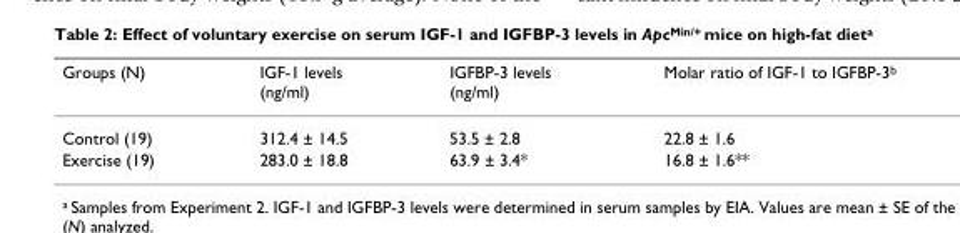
<table><thead><tr><td>Groups (N)</td><td>IGF-1 levels (ng/ml)</td><td>IGFBP-3 levels (ng/ml)</td><td>Molar ratio of IGF-1 to IGFBP-3<sup>b</sup></td></tr></thead><tbody><tr><td>Control (19)</td><td>312.4 ± 14.5</td><td>53.5 ± 2.8</td><td>22.8 ± 1.6</td></tr><tr><td>Exercise (19)</td><td>283.0 ± 18.8</td><td>63.9 ± 3.4*</td><td>16.8 ± 1.6**</td></tr></tbody></table>